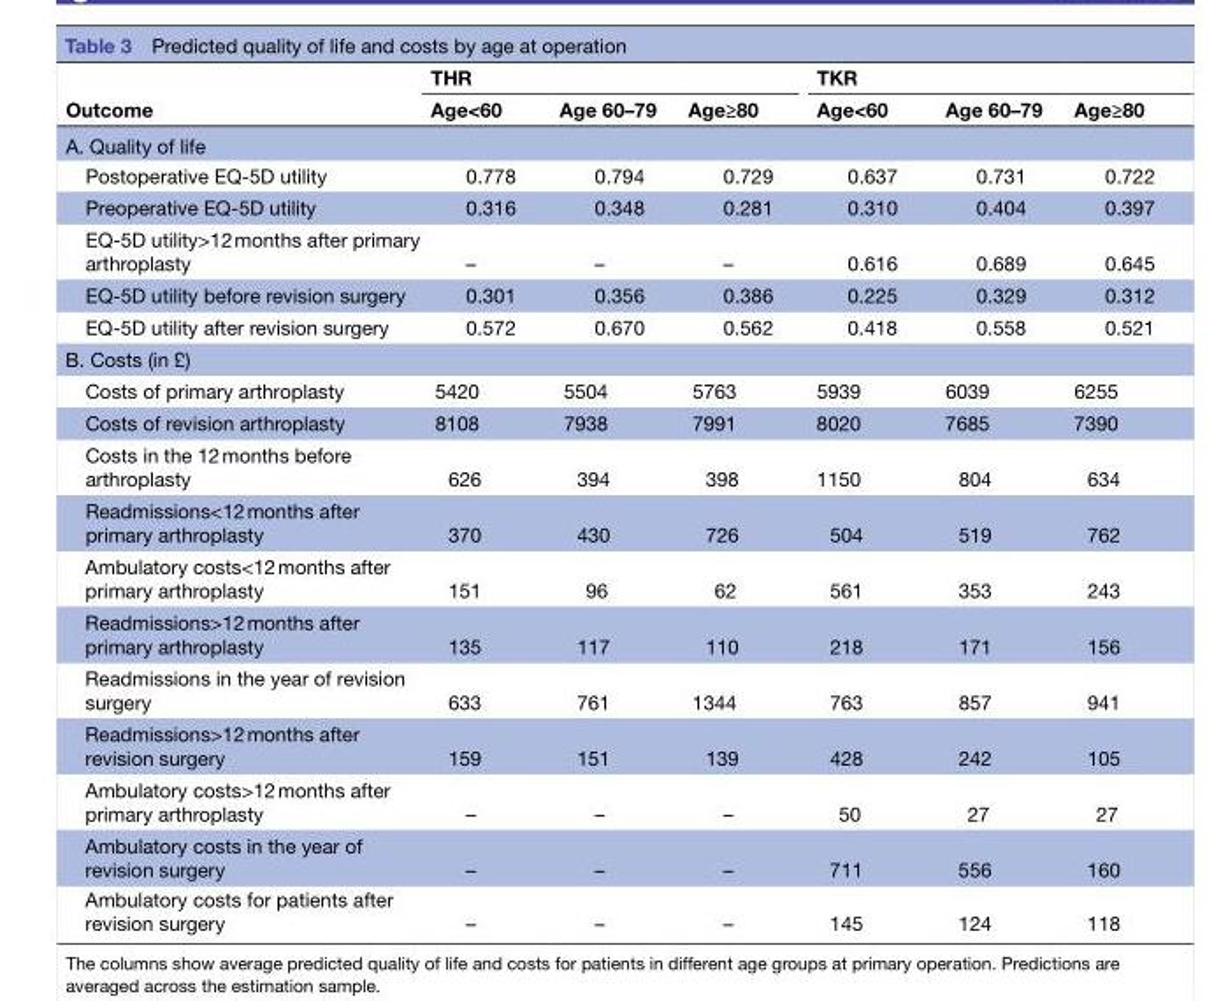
<table><thead><tr><td rowspan="2">Outcome</td><td colspan="3">THR</td><td colspan="3">TKR</td></tr><tr><td>Age&lt;60</td><td>Age 60–79</td><td>Age≥80</td><td>Age&lt;60</td><td>Age 60–79</td><td>Age≥80</td></tr></thead><tbody><tr><td colspan="7">A. Quality of life</td></tr><tr><td>Postoperative EQ-5D utility</td><td>0.778</td><td>0.794</td><td>0.729</td><td>0.637</td><td>0.731</td><td>0.722</td></tr><tr><td>Preoperative EQ-5D utility</td><td>0.316</td><td>0.348</td><td>0.281</td><td>0.310</td><td>0.404</td><td>0.397</td></tr><tr><td>EQ-5D utility&gt;12 months after primary arthroplasty</td><td>–</td><td>–</td><td>–</td><td>0.616</td><td>0.689</td><td>0.645</td></tr><tr><td>EQ-5D utility before revision surgery</td><td>0.301</td><td>0.356</td><td>0.386</td><td>0.225</td><td>0.329</td><td>0.312</td></tr><tr><td>EQ-5D utility after revision surgery</td><td>0.572</td><td>0.670</td><td>0.562</td><td>0.418</td><td>0.558</td><td>0.521</td></tr><tr><td colspan="7">B. Costs (in £)</td></tr><tr><td>Costs of primary arthroplasty</td><td>5420</td><td>5504</td><td>5763</td><td>5939</td><td>6039</td><td>6255</td></tr><tr><td>Costs of revision arthroplasty</td><td>8108</td><td>7938</td><td>7991</td><td>8020</td><td>7685</td><td>7390</td></tr><tr><td>Costs in the 12 months before arthroplasty</td><td>626</td><td>394</td><td>398</td><td>1150</td><td>804</td><td>634</td></tr><tr><td>Readmissions&lt;12 months after primary arthroplasty</td><td>370</td><td>430</td><td>726</td><td>504</td><td>519</td><td>762</td></tr><tr><td>Ambulatory costs&lt;12 months after primary arthroplasty</td><td>151</td><td>96</td><td>62</td><td>561</td><td>353</td><td>243</td></tr><tr><td>Readmissions&gt;12 months after primary arthroplasty</td><td>135</td><td>117</td><td>110</td><td>218</td><td>171</td><td>156</td></tr><tr><td>Readmissions in the year of revision surgery</td><td>633</td><td>761</td><td>1344</td><td>763</td><td>857</td><td>941</td></tr><tr><td>Readmissions&gt;12 months after revision surgery</td><td>159</td><td>151</td><td>139</td><td>428</td><td>242</td><td>105</td></tr><tr><td>Ambulatory costs&gt;12 months after primary arthroplasty</td><td>–</td><td>–</td><td>–</td><td>50</td><td>27</td><td>27</td></tr><tr><td>Ambulatory costs in the year of revision surgery</td><td>–</td><td>–</td><td>–</td><td>711</td><td>556</td><td>160</td></tr><tr><td>Ambulatory costs for patients after revision surgery</td><td>–</td><td>–</td><td>–</td><td>145</td><td>124</td><td>118</td></tr></tbody></table>